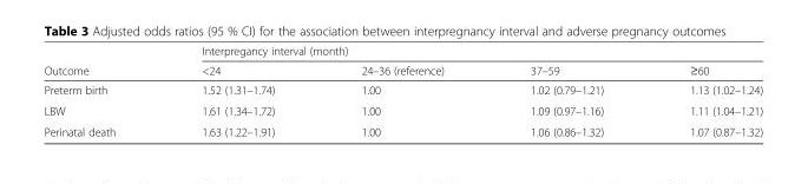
<table><thead><tr><td rowspan="2">Outcome</td><td colspan="4">Interpregancy interval (month)</td></tr><tr><td>&lt;24</td><td>24–36 (reference)</td><td>37–59</td><td>≥60</td></tr></thead><tbody><tr><td>Preterm birth</td><td>1.52 (1.31–1.74)</td><td>1.00</td><td>1.02 (0.79–1.21)</td><td>1.13 (1.02–1.24)</td></tr><tr><td>LBW</td><td>1.61 (1.34–1.72)</td><td>1.00</td><td>1.09 (0.97–1.16)</td><td>1.11 (1.04–1.21)</td></tr><tr><td>Perinatal death</td><td>1.63 (1.22–1.91)</td><td>1.00</td><td>1.06 (0.86–1.32)</td><td>1.07 (0.87–1.32)</td></tr></tbody></table>